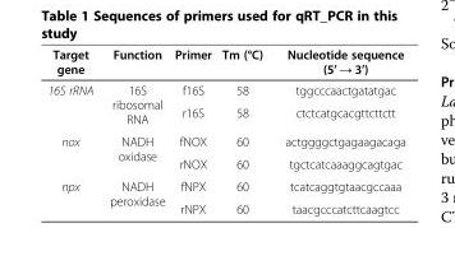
<table><thead><tr><td>Target gene</td><td>Function</td><td>Primer</td><td>Tm (°C)</td><td>Nucleotide sequence (5’ → 3’)</td></tr></thead><tbody><tr><td rowspan="2">16S rRNA</td><td rowspan="2">16S ribosomal RNA</td><td>f16S</td><td>58</td><td>tggcccaactgatatgac</td></tr><tr><td>r16S</td><td>58</td><td>ctctcatgcacgttcttctt</td></tr><tr><td rowspan="2">nox</td><td rowspan="2">NADH oxidase</td><td>fNOX</td><td>60</td><td>actggggctgagaagacaga</td></tr><tr><td>rNOX</td><td>60</td><td>tgctcatcaaaggcagtgac</td></tr><tr><td rowspan="2">npx</td><td rowspan="2">NADH peroxidase</td><td>fNPX</td><td>60</td><td>tcatcaggtgtaacgccaaa</td></tr><tr><td>rNPX</td><td>60</td><td>taacgcccatcttcaagtcc</td></tr></tbody></table>